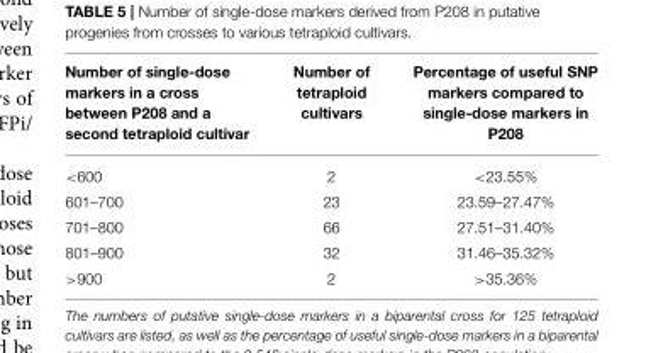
<table><thead><tr><td>Number of single-dose markers in a cross between P208 and a second tetraploid cultivar</td><td>Number of tetraploid cultivars</td><td>Percentage of useful SNP markers compared to single-dose markers in P208</td></tr></thead><tbody><tr><td>&lt;600</td><td>2</td><td>&lt;23.55%</td></tr><tr><td>601–700</td><td>23</td><td>23.59–27.47%</td></tr><tr><td>701–800</td><td>66</td><td>27.51–31.40%</td></tr><tr><td>801–900</td><td>32</td><td>31.46–35.32%</td></tr><tr><td>&gt;900</td><td>2</td><td>&gt;35.36%</td></tr></tbody></table>